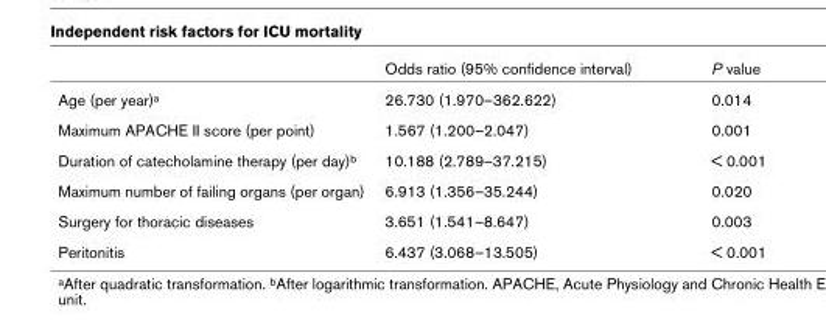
<table><thead><tr><td></td><td>Odds ratio (95% confidence interval)</td><td>P value</td></tr></thead><tbody><tr><td>Age (per year)<sup>a</sup></td><td>26.730 (1.970–362.622)</td><td>0.014</td></tr><tr><td>Maximum APACHE II score (per point)</td><td>1.567 (1.200–2.047)</td><td>0.001</td></tr><tr><td>Duration of catecholamine therapy (per day)<sup>b</sup></td><td>10.188 (2.789–37.215)</td><td>&lt; 0.001</td></tr><tr><td>Maximum number of failing organs (per organ)</td><td>6.913 (1.356–35.244)</td><td>0.020</td></tr><tr><td>Surgery for thoracic diseases</td><td>3.651 (1.541–8.647)</td><td>0.003</td></tr><tr><td>Peritonitis</td><td>6.437 (3.068–13.505)</td><td>&lt; 0.001</td></tr></tbody></table>